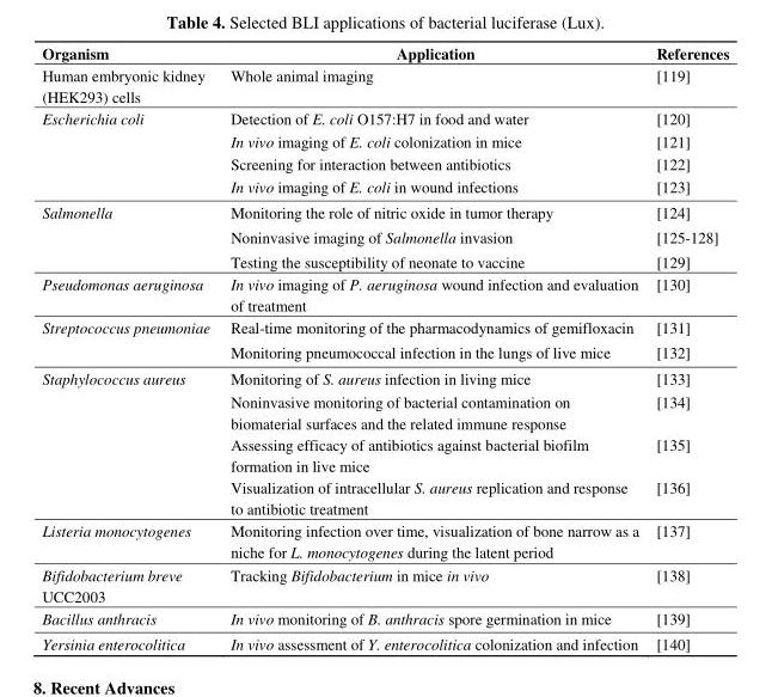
<table><thead><tr><td>Organism</td><td>Application</td><td>References</td></tr></thead><tbody><tr><td>Human embryonic kidney (HEK293) cells</td><td>Whole animal imaging</td><td>[119]</td></tr><tr><td rowspan="4">Escherichia coli</td><td>Detection of E. coli O157:H7 in food and water</td><td>[120]</td></tr><tr><td>In vivo imaging of E. coli colonization in mice</td><td>[121]</td></tr><tr><td>Screening for interaction between antibiotics</td><td>[122]</td></tr><tr><td>In vivo imaging of E. coli in wound infections</td><td>[123]</td></tr><tr><td rowspan="3">Salmonella</td><td>Monitoring the role of nitric oxide in tumor therapy</td><td>[124]</td></tr><tr><td>Noninvasive imaging of Salmonella invasion</td><td>[125-128]</td></tr><tr><td>Testing the susceptibility of neonate to vaccine</td><td>[129]</td></tr><tr><td>Pseudomonas aeruginosa</td><td>In vivo imaging of P. aeruginosa wound infection and evaluation of treatment</td><td>[130]</td></tr><tr><td rowspan="2">Streptococcus pneumoniae</td><td>Real-time monitoring of the pharmacodynamics of gemifloxacin</td><td>[131]</td></tr><tr><td>Monitoring pneumococcal infection in the lungs of live mice</td><td>[132]</td></tr><tr><td rowspan="4">Staphylococcus aureus</td><td>Monitoring of S. aureus infection in living mice</td><td>[133]</td></tr><tr><td>Noninvasive monitoring of bacterial contamination on biomaterial surfaces and the related immune response</td><td>[134]</td></tr><tr><td>Assessing efficacy of antibiotics against bacterial biofilm formation in live mice</td><td>[135]</td></tr><tr><td>Visualization of intracellular S. aureus replication and response to antibiotic treatment</td><td>[136]</td></tr><tr><td>Listeria monocytogenes</td><td>Monitoring infection over time, visualization of bone narrow as a niche for L. monocytogenes during the latent period</td><td>[137]</td></tr><tr><td>Bifidobacterium breve UCC2003</td><td>Tracking Bifidobacterium in mice in vivo</td><td>[138]</td></tr><tr><td>Bacillus anthracis</td><td>In vivo monitoring of B. anthracis spore germination in mice</td><td>[139]</td></tr><tr><td>Yersinia enterocolitica</td><td>In vivo assessment of Y. enterocolitica colonization and infection</td><td>[140]</td></tr></tbody></table>